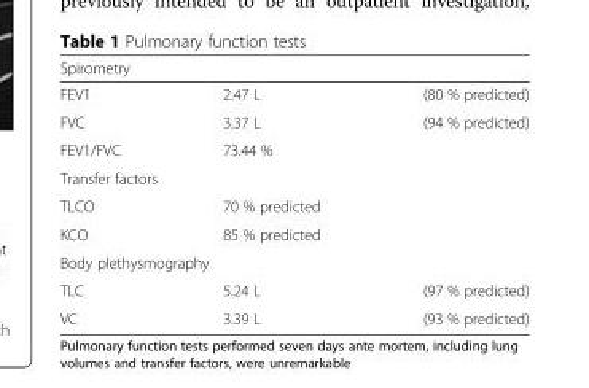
<table><thead><tr><td colspan="3">Spirometry</td></tr><tr><td>FEV1</td><td>2.47 L</td><td>(80 % predicted)</td></tr></thead><tbody><tr><td>FVC</td><td>3.37 L</td><td>(94 % predicted)</td></tr><tr><td>FEV1/FVC</td><td>73.44 %</td><td></td></tr><tr><td colspan="3">Transfer factors</td></tr><tr><td>TLCO</td><td>70 % predicted</td><td></td></tr><tr><td>KCO</td><td>85 % predicted</td><td></td></tr><tr><td colspan="3">Body plethysmography</td></tr><tr><td>TLC</td><td>5.24 L</td><td>(97 % predicted)</td></tr><tr><td>VC</td><td>3.39 L</td><td>(93 % predicted)</td></tr></tbody></table>